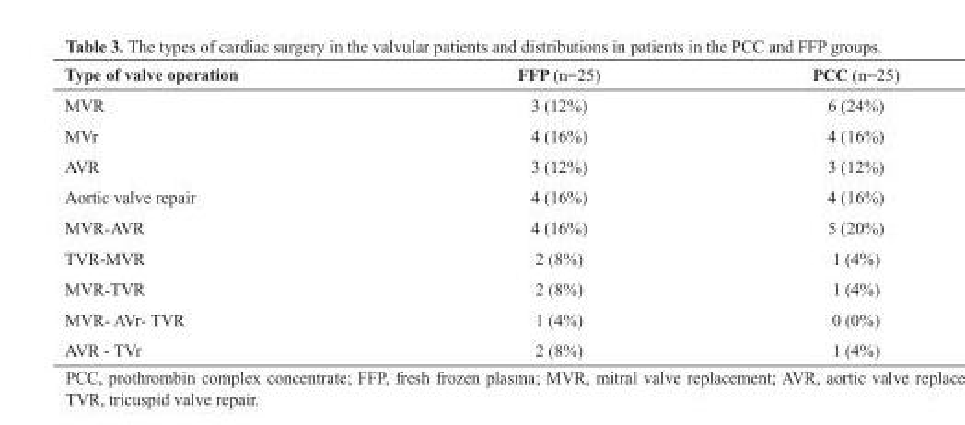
<table><thead><tr><td>Type of valve operation</td><td>FFP (n=25)</td><td>PCC (n=25)</td></tr></thead><tbody><tr><td>MVR</td><td>3 (12%)</td><td>6 (24%)</td></tr><tr><td>MVr</td><td>4 (16%)</td><td>4 (16%)</td></tr><tr><td>AVR</td><td>3 (12%)</td><td>3 (12%)</td></tr><tr><td>Aortic valve repair</td><td>4 (16%)</td><td>4 (16%)</td></tr><tr><td>MVR-AVR</td><td>4 (16%)</td><td>5 (20%)</td></tr><tr><td>TVR-MVR</td><td>2 (8%)</td><td>1 (4%)</td></tr><tr><td>MVR-TVR</td><td>2 (8%)</td><td>1 (4%)</td></tr><tr><td>MVR- AVr- TVR</td><td>1 (4%)</td><td>0 (0%)</td></tr><tr><td>AVR - TVr</td><td>2 (8%)</td><td>1 (4%)</td></tr></tbody></table>